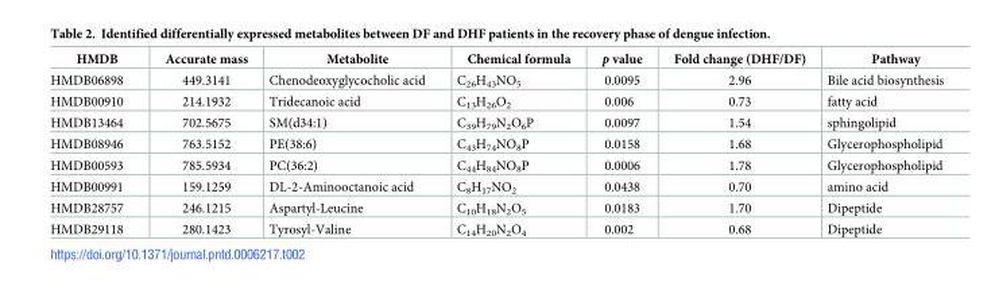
<table><thead><tr><td>HMDB</td><td>Accurate mass</td><td>Metabolite</td><td>Chemical formula</td><td>p value</td><td>Fold change (DHF/DF)</td><td>Pathway</td></tr></thead><tbody><tr><td>HMDB06898</td><td>449.3141</td><td>Chenodeoxyglycocholic acid</td><td>C<sub>26</sub>H<sub>43</sub>NO<sub>5</sub></td><td>0.0095</td><td>2.96</td><td>Bile acid biosynthesis</td></tr><tr><td>HMDB00910</td><td>214.1932</td><td>Tridecanoic acid</td><td>C<sub>13</sub>H<sub>26</sub>O<sub>2</sub></td><td>0.006</td><td>0.73</td><td>fatty acid</td></tr><tr><td>HMDB13464</td><td>702.5675</td><td>SM(d34:1)</td><td>C<sub>39</sub>H<sub>79</sub>N<sub>2</sub>O<sub>6</sub>P</td><td>0.0097</td><td>1.54</td><td>sphingolipid</td></tr><tr><td>HMDB08946</td><td>763.5152</td><td>PE(38:6)</td><td>C<sub>43</sub>H<sub>74</sub>NO<sub>8</sub>P</td><td>0.0158</td><td>1.68</td><td>Glycerophospholipid</td></tr><tr><td>HMDB00593</td><td>785.5934</td><td>PC(36:2)</td><td>C<sub>44</sub>H<sub>84</sub>NO<sub>8</sub>P</td><td>0.0006</td><td>1.78</td><td>Glycerophospholipid</td></tr><tr><td>HMDB00991</td><td>159.1259</td><td>DL-2-Aminooctanoic acid</td><td>C<sub>8</sub>H<sub>17</sub>NO<sub>2</sub></td><td>0.0438</td><td>0.70</td><td>amino acid</td></tr><tr><td>HMDB28757</td><td>246.1215</td><td>Aspartyl-Leucine</td><td>C<sub>10</sub>H<sub>18</sub>N<sub>2</sub>O<sub>5</sub></td><td>0.0183</td><td>1.70</td><td>Dipeptide</td></tr><tr><td>HMDB29118</td><td>280.1423</td><td>Tyrosyl-Valine</td><td>C<sub>14</sub>H<sub>20</sub>N<sub>2</sub>O<sub>4</sub></td><td>0.002</td><td>0.68</td><td>Dipeptide</td></tr></tbody></table>